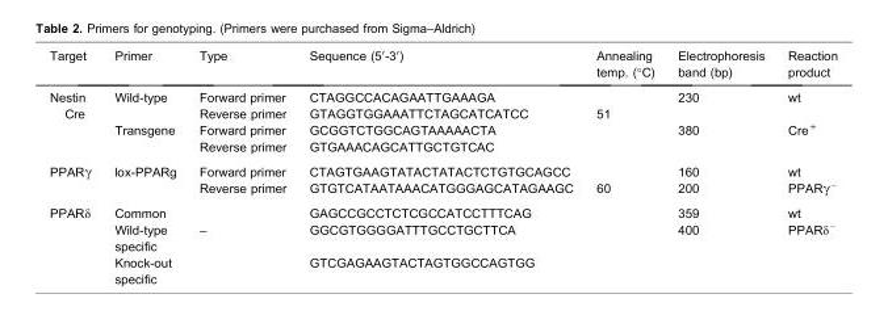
<table><thead><tr><td>Target</td><td>Primer</td><td>Type</td><td>Sequence (5′-3′)</td><td>Annealing temp. (°C)</td><td>Electrophoresis band (bp)</td><td>Reaction product</td></tr></thead><tbody><tr><td rowspan="4">Nestin Cre</td><td rowspan="2">Wild-type</td><td>Forward primer</td><td>CTAGGCCACAGAATTGAAAGA</td><td></td><td rowspan="2">230</td><td rowspan="2">wt</td></tr><tr><td>Reverse primer</td><td>GTAGGTGGAAATTCTAGCATCATCC</td><td rowspan="2">51</td></tr><tr><td rowspan="2">Transgene</td><td>Forward primer</td><td>GCGGTCTGGCAGTAAAAACTA</td><td rowspan="2">380</td><td rowspan="2">Cre<sup>+</sup></td></tr><tr><td>Reverse primer</td><td>GTGAAACAGCATTGCTGTCAC</td><td></td></tr><tr><td rowspan="2">PPARγ</td><td rowspan="2">lox-PPARg</td><td>Forward primer</td><td>CTAGTGAAGTATACTATACTCTGTGCAGCC</td><td></td><td>160</td><td>wt</td></tr><tr><td>Reverse primer</td><td>GTGTCATAATAAACATGGGAGCATAGAAGC</td><td>60</td><td>200</td><td>PPARγ<sup>−</sup></td></tr><tr><td rowspan="3">PPARδ</td><td>Common</td><td></td><td>GAGCCGCCTCTCGCCATCCTTTCAG</td><td></td><td>359</td><td>wt</td></tr><tr><td>Wild-type specific</td><td>–</td><td>GGCGTGGGGATTTGCCTGCTTCA</td><td></td><td>400</td><td>PPARδ<sup>−</sup></td></tr><tr><td>Knock-out specific</td><td></td><td>GTCGAGAAGTACTAGTGGCCAGTGG</td><td></td><td></td><td></td></tr></tbody></table>